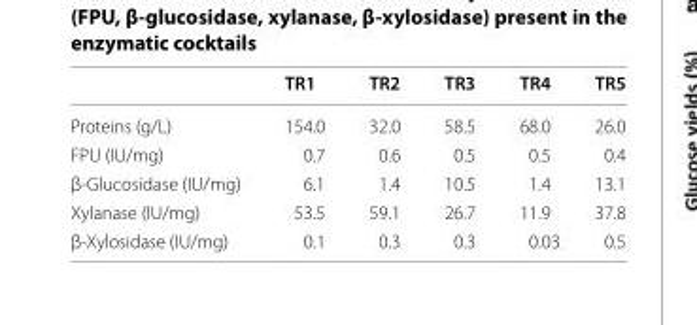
<table><thead><tr><td></td><td>TR1</td><td>TR2</td><td>TR3</td><td>TR4</td><td>TR5</td></tr></thead><tbody><tr><td>Proteins (g/L)</td><td>154.0</td><td>32.0</td><td>58.5</td><td>68.0</td><td>26.0</td></tr><tr><td>FPU (IU/mg)</td><td>0.7</td><td>0.6</td><td>0.5</td><td>0.5</td><td>0.4</td></tr><tr><td>β-Glucosidase (IU/mg)</td><td>6.1</td><td>1.4</td><td>10.5</td><td>1.4</td><td>13.1</td></tr><tr><td>Xylanase (IU/mg)</td><td>53.5</td><td>59.1</td><td>26.7</td><td>11.9</td><td>37.8</td></tr><tr><td>β-Xylosidase (IU/mg)</td><td>0.1</td><td>0.3</td><td>0.3</td><td>0.03</td><td>0.5</td></tr></tbody></table>